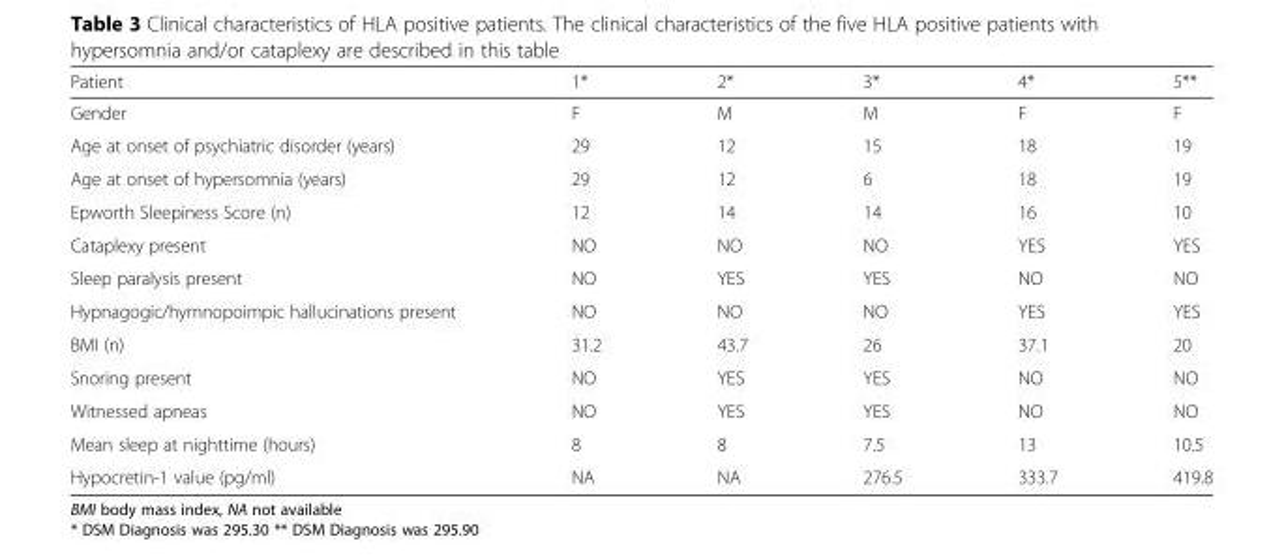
<table><thead><tr><td>Patient</td><td>1*</td><td>2*</td><td>3*</td><td>4*</td><td>5**</td></tr></thead><tbody><tr><td>Gender</td><td>F</td><td>M</td><td>M</td><td>F</td><td>F</td></tr><tr><td>Age at onset of psychiatric disorder (years)</td><td>29</td><td>12</td><td>15</td><td>18</td><td>19</td></tr><tr><td>Age at onset of hypersomnia (years)</td><td>29</td><td>12</td><td>6</td><td>18</td><td>19</td></tr><tr><td>Epworth Sleepiness Score (n)</td><td>12</td><td>14</td><td>14</td><td>16</td><td>10</td></tr><tr><td>Cataplexy present</td><td>NO</td><td>NO</td><td>NO</td><td>YES</td><td>YES</td></tr><tr><td>Sleep paralysis present</td><td>NO</td><td>YES</td><td>YES</td><td>NO</td><td>NO</td></tr><tr><td>Hypnagogic/hymnopoimpic hallucinations present</td><td>NO</td><td>NO</td><td>NO</td><td>YES</td><td>YES</td></tr><tr><td>BMI (n)</td><td>31.2</td><td>43.7</td><td>26</td><td>37.1</td><td>20</td></tr><tr><td>Snoring present</td><td>NO</td><td>YES</td><td>YES</td><td>NO</td><td>NO</td></tr><tr><td>Witnessed apneas</td><td>NO</td><td>YES</td><td>YES</td><td>NO</td><td>NO</td></tr><tr><td>Mean sleep at nighttime (hours)</td><td>8</td><td>8</td><td>7.5</td><td>13</td><td>10.5</td></tr><tr><td>Hypocretin-1 value (pg/ml)</td><td>NA</td><td>NA</td><td>276.5</td><td>333.7</td><td>419.8</td></tr></tbody></table>